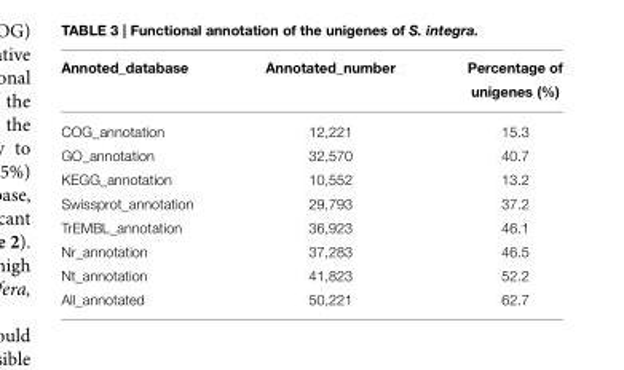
<table><thead><tr><td>Annoted_database</td><td>Annotated_number</td><td>Percentage of unigenes (%)</td></tr></thead><tbody><tr><td>COG_annotation</td><td>12,221</td><td>15.3</td></tr><tr><td>GO_annotation</td><td>32,570</td><td>40.7</td></tr><tr><td>KEGG_annotation</td><td>10,552</td><td>13.2</td></tr><tr><td>Swissprot_annotation</td><td>29,793</td><td>37.2</td></tr><tr><td>TrEMBL_annotation</td><td>36,923</td><td>46.1</td></tr><tr><td>Nr_annotation</td><td>37,283</td><td>46.5</td></tr><tr><td>Nt_annotation</td><td>41,823</td><td>52.2</td></tr><tr><td>All_annotated</td><td>50,221</td><td>62.7</td></tr></tbody></table>